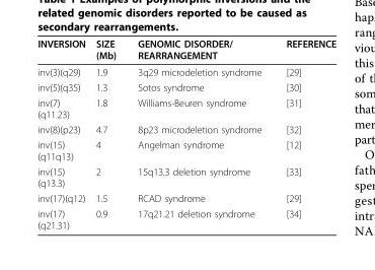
<table><thead><tr><td>INVERSION</td><td>SIZE (Mb)</td><td>GENOMIC DISORDER/ REARRANGEMENT</td><td>REFERENCE</td></tr></thead><tbody><tr><td>inv(3)(q29)</td><td>1.9</td><td>3q29 microdeletion syndrome</td><td>[29]</td></tr><tr><td>inv(5)(q35)</td><td>1.3</td><td>Sotos syndrome</td><td>[30]</td></tr><tr><td>inv(7) (q11.23)</td><td>1.8</td><td>Williams-Beuren syndrome</td><td>[31]</td></tr><tr><td>inv(8)(p23)</td><td>4.7</td><td>8p23 microdeletion syndrome</td><td>[32]</td></tr><tr><td>inv(15) (q11q13)</td><td>4</td><td>Angelman syndrome</td><td>[12]</td></tr><tr><td>inv(15) (q13.3)</td><td>2</td><td>15q13.3 deletion syndrome</td><td>[33]</td></tr><tr><td>inv(17)(q12)</td><td>1.5</td><td>RCAD syndrome</td><td>[29]</td></tr><tr><td>inv(17) (q21.31)</td><td>0.9</td><td>17q21.21 deletion syndrome</td><td>[34]</td></tr></tbody></table>